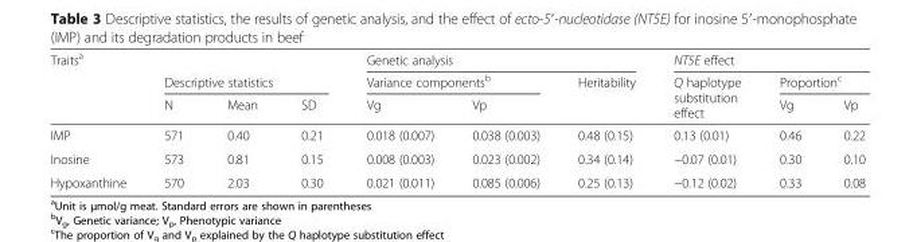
<table><thead><tr><td rowspan="3">Traits<sup>a</sup></td><td></td><td></td><td></td><td colspan="3">Genetic analysis</td><td colspan="3">NT5E effect</td></tr><tr><td colspan="3">Descriptive statistics</td><td colspan="2">Variance components<sup>b</sup></td><td rowspan="2">Heritability</td><td rowspan="2">Q haplotype substitution effect</td><td colspan="2">Proportion<sup>c</sup></td></tr><tr><td>N</td><td>Mean</td><td>SD</td><td>Vg</td><td>Vp</td><td>Vg</td><td>Vp</td></tr></thead><tbody><tr><td>IMP</td><td>571</td><td>0.40</td><td>0.21</td><td>0.018 (0.007)</td><td>0.038 (0.003)</td><td>0.48 (0.15)</td><td>0.13 (0.01)</td><td>0.46</td><td>0.22</td></tr><tr><td>Inosine</td><td>573</td><td>0.81</td><td>0.15</td><td>0.008 (0.003)</td><td>0.023 (0.002)</td><td>0.34 (0.14)</td><td>−0.07 (0.01)</td><td>0.30</td><td>0.10</td></tr><tr><td>Hypoxanthine</td><td>570</td><td>2.03</td><td>0.30</td><td>0.021 (0.011)</td><td>0.085 (0.006)</td><td>0.25 (0.13)</td><td>−0.12 (0.02)</td><td>0.33</td><td>0.08</td></tr></tbody></table>